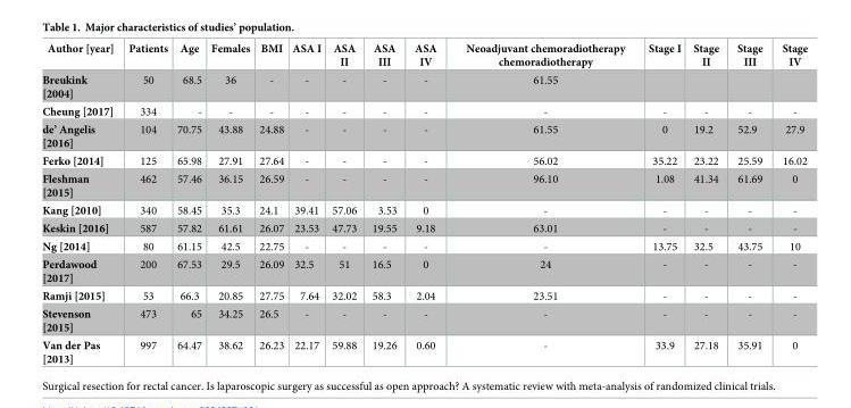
<table><thead><tr><td>Author [year]</td><td>Patients</td><td>Age</td><td>Females</td><td>BMI</td><td>ASA I</td><td>ASA II</td><td>ASA III</td><td>ASA IV</td><td>Neoadjuvant chemoradiotherapy chemoradiotherapy</td><td>Stage I</td><td>Stage II</td><td>Stage III</td><td>Stage IV</td></tr></thead><tbody><tr><td>Breukink [2004]</td><td>50</td><td>68.5</td><td>36</td><td>-</td><td>-</td><td>-</td><td>-</td><td>-</td><td>61.55</td><td></td><td></td><td></td><td></td></tr><tr><td>Cheung [2017]</td><td>334</td><td>-</td><td>-</td><td>-</td><td>-</td><td>-</td><td>-</td><td>-</td><td>-</td><td>-</td><td>-</td><td>-</td><td>-</td></tr><tr><td>de’ Angelis [2016]</td><td>104</td><td>70.75</td><td>43.88</td><td>24.88</td><td>-</td><td>-</td><td>-</td><td>-</td><td>61.55</td><td>0</td><td>19.2</td><td>52.9</td><td>27.9</td></tr><tr><td>Ferko [2014]</td><td>125</td><td>65.98</td><td>27.91</td><td>27.64</td><td>-</td><td>-</td><td>-</td><td>-</td><td>56.02</td><td>35.22</td><td>23.22</td><td>25.59</td><td>16.02</td></tr><tr><td>Fleshman [2015]</td><td>462</td><td>57.46</td><td>36.15</td><td>26.59</td><td>-</td><td>-</td><td>-</td><td>-</td><td>96.10</td><td>1.08</td><td>41.34</td><td>61.69</td><td>0</td></tr><tr><td>Kang [2010]</td><td>340</td><td>58.45</td><td>35.3</td><td>24.1</td><td>39.41</td><td>57.06</td><td>3.53</td><td>0</td><td>-</td><td>-</td><td>-</td><td>-</td><td>-</td></tr><tr><td>Keskin [2016]</td><td>587</td><td>57.82</td><td>61.61</td><td>26.07</td><td>23.53</td><td>47.73</td><td>19.55</td><td>9.18</td><td>63.01</td><td>-</td><td>-</td><td>-</td><td>-</td></tr><tr><td>Ng [2014]</td><td>80</td><td>61.15</td><td>42.5</td><td>22.75</td><td>-</td><td>-</td><td>-</td><td>-</td><td>-</td><td>13.75</td><td>32.5</td><td>43.75</td><td>10</td></tr><tr><td>Perdawood [2017]</td><td>200</td><td>67.53</td><td>29.5</td><td>26.09</td><td>32.5</td><td>51</td><td>16.5</td><td>0</td><td>24</td><td>-</td><td>-</td><td>-</td><td>-</td></tr><tr><td>Ramji [2015]</td><td>53</td><td>66.3</td><td>20.85</td><td>27.75</td><td>7.64</td><td>32.02</td><td>58.3</td><td>2.04</td><td>23.51</td><td>-</td><td>-</td><td>-</td><td>-</td></tr><tr><td>Stevenson [2015]</td><td>473</td><td>65</td><td>34.25</td><td>26.5</td><td>-</td><td>-</td><td>-</td><td>-</td><td>-</td><td>-</td><td>-</td><td>-</td><td>-</td></tr><tr><td>Van der Pas [2013]</td><td>997</td><td>64.47</td><td>38.62</td><td>26.23</td><td>22.17</td><td>59.88</td><td>19.26</td><td>0.60</td><td>-</td><td>33.9</td><td>27.18</td><td>35.91</td><td>0</td></tr></tbody></table>